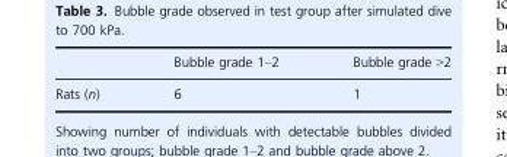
<table><thead><tr><td></td><td>Bubble grade 1–2</td><td>Bubble grade &gt;2</td></tr></thead><tbody><tr><td>Rats (n)</td><td>6</td><td>1</td></tr></tbody></table>